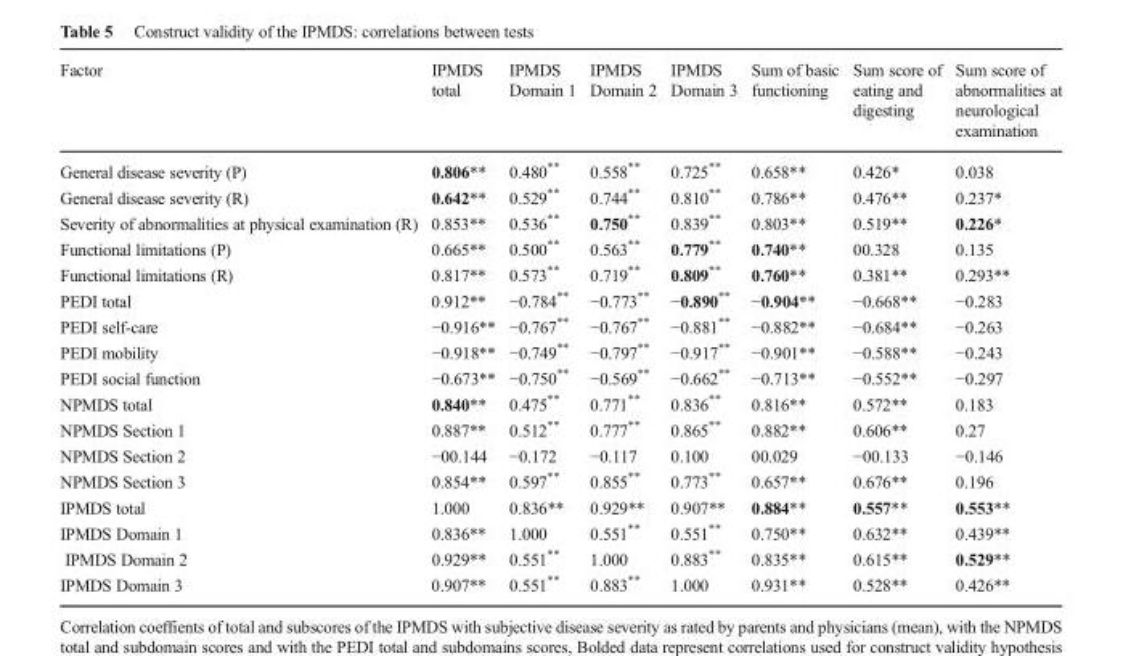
<table><thead><tr><td>Factor</td><td>IPMDS total</td><td>IPMDS Domain 1</td><td>IPMDS Domain 2</td><td>IPMDS Domain 3</td><td>Sum of basic functioning</td><td>Sum score of eating and digesting</td><td>Sum score of abnormalities at neurological examination</td></tr></thead><tbody><tr><td>General disease severity (P)</td><td>0.806**</td><td>0.480**</td><td>0.558**</td><td>0.725**</td><td>0.658**</td><td>0.426*</td><td>0.038</td></tr><tr><td>General disease severity (R)</td><td>0.642**</td><td>0.529**</td><td>0.744**</td><td>0.810**</td><td>0.786**</td><td>0.476**</td><td>0.237*</td></tr><tr><td>Severity of abnormalities at physical examination (R)</td><td>0.853**</td><td>0.536**</td><td>0.750**</td><td>0.839**</td><td>0.803**</td><td>0.519**</td><td>0.226*</td></tr><tr><td>Functional limitations (P)</td><td>0.665**</td><td>0.500**</td><td>0.563**</td><td>0.779**</td><td>0.740**</td><td>00.328</td><td>0.135</td></tr><tr><td>Functional limitations (R)</td><td>0.817**</td><td>0.573**</td><td>0.719**</td><td>0.809**</td><td>0.760**</td><td>0.381**</td><td>0.293**</td></tr><tr><td>PEDI total</td><td>0.912**</td><td>−0.784**</td><td>−0.773**</td><td>−0.890**</td><td>−0.904**</td><td>−0.668**</td><td>−0.283</td></tr><tr><td>PEDI self-care</td><td>−0.916**</td><td>−0.767**</td><td>−0.767**</td><td>−0.881**</td><td>−0.882**</td><td>−0.684**</td><td>−0.263</td></tr><tr><td>PEDI mobility</td><td>−0.918**</td><td>−0.749**</td><td>−0.797**</td><td>−0.917**</td><td>−0.901**</td><td>−0.588**</td><td>−0.243</td></tr><tr><td>PEDI social function</td><td>−0.673**</td><td>−0.750**</td><td>−0.569**</td><td>−0.662**</td><td>−0.713**</td><td>−0.552**</td><td>−0.297</td></tr><tr><td>NPMDS total</td><td>0.840**</td><td>0.475**</td><td>0.771**</td><td>0.836**</td><td>0.816**</td><td>0.572**</td><td>0.183</td></tr><tr><td>NPMDS Section 1</td><td>0.887**</td><td>0.512**</td><td>0.777**</td><td>0.865**</td><td>0.882**</td><td>0.606**</td><td>0.27</td></tr><tr><td>NPMDS Section 2</td><td>−00.144</td><td>−0.172</td><td>−0.117</td><td>0.100</td><td>00.029</td><td>−00.133</td><td>−0.146</td></tr><tr><td>NPMDS Section 3</td><td>0.854**</td><td>0.597**</td><td>0.855**</td><td>0.773**</td><td>0.657**</td><td>0.676**</td><td>0.196</td></tr><tr><td>IPMDS total</td><td>1.000</td><td>0.836**</td><td>0.929**</td><td>0.907**</td><td>0.884**</td><td>0.557**</td><td>0.553**</td></tr><tr><td>IPMDS Domain 1</td><td>0.836**</td><td>1.000</td><td>0.551**</td><td>0.551**</td><td>0.750**</td><td>0.632**</td><td>0.439**</td></tr><tr><td>IPMDS Domain 2</td><td>0.929**</td><td>0.551**</td><td>1.000</td><td>0.883**</td><td>0.835**</td><td>0.615**</td><td>0.529**</td></tr><tr><td>IPMDS Domain 3</td><td>0.907**</td><td>0.551**</td><td>0.883**</td><td>1.000</td><td>0.931**</td><td>0.528**</td><td>0.426**</td></tr></tbody></table>